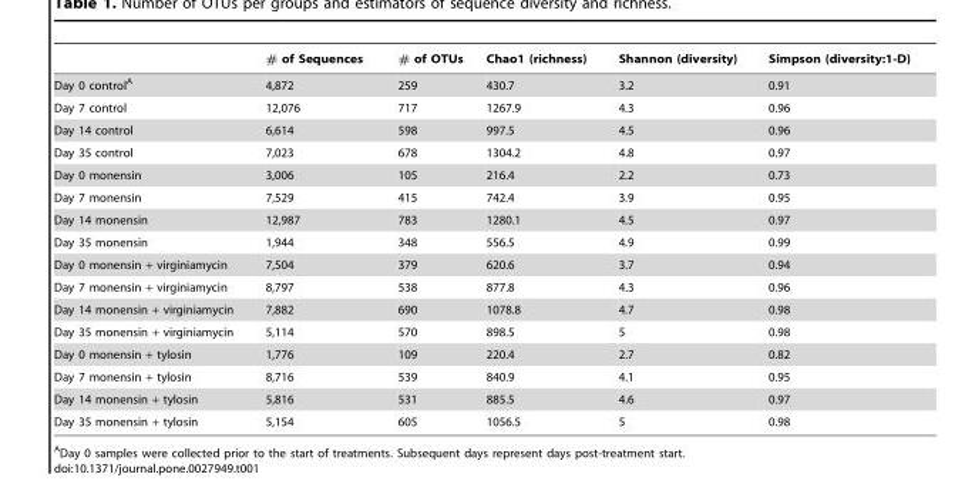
<table><thead><tr><td></td><td># of Sequences</td><td># of OTUs</td><td>Chao1 (richness)</td><td>Shannon (diversity)</td><td>Simpson (diversity:1-D)</td></tr></thead><tbody><tr><td>Day 0 control<sup>A</sup></td><td>4,872</td><td>259</td><td>430.7</td><td>3.2</td><td>0.91</td></tr><tr><td>Day 7 control</td><td>12,076</td><td>717</td><td>1267.9</td><td>4.3</td><td>0.96</td></tr><tr><td>Day 14 control</td><td>6,614</td><td>598</td><td>997.5</td><td>4.5</td><td>0.96</td></tr><tr><td>Day 35 control</td><td>7,023</td><td>678</td><td>1304.2</td><td>4.8</td><td>0.97</td></tr><tr><td>Day 0 monensin</td><td>3,006</td><td>105</td><td>216.4</td><td>2.2</td><td>0.73</td></tr><tr><td>Day 7 monensin</td><td>7,529</td><td>415</td><td>742.4</td><td>3.9</td><td>0.95</td></tr><tr><td>Day 14 monensin</td><td>12,987</td><td>783</td><td>1280.1</td><td>4.5</td><td>0.97</td></tr><tr><td>Day 35 monensin</td><td>1,944</td><td>348</td><td>556.5</td><td>4.9</td><td>0.99</td></tr><tr><td>Day 0 monensin + virginiamycin</td><td>7,504</td><td>379</td><td>620.6</td><td>3.7</td><td>0.94</td></tr><tr><td>Day 7 monensin + virginiamycin</td><td>8,797</td><td>538</td><td>877.8</td><td>4.3</td><td>0.96</td></tr><tr><td>Day 14 monensin + virginiamycin</td><td>7,882</td><td>690</td><td>1078.8</td><td>4.7</td><td>0.98</td></tr><tr><td>Day 35 monensin + virginiamycin</td><td>5,114</td><td>570</td><td>898.5</td><td>5</td><td>0.98</td></tr><tr><td>Day 0 monensin + tylosin</td><td>1,776</td><td>109</td><td>220.4</td><td>2.7</td><td>0.82</td></tr><tr><td>Day 7 monensin + tylosin</td><td>8,716</td><td>539</td><td>840.9</td><td>4.1</td><td>0.95</td></tr><tr><td>Day 14 monensin + tylosin</td><td>5,816</td><td>531</td><td>885.5</td><td>4.6</td><td>0.97</td></tr><tr><td>Day 35 monensin + tylosin</td><td>5,154</td><td>605</td><td>1056.5</td><td>5</td><td>0.98</td></tr></tbody></table>